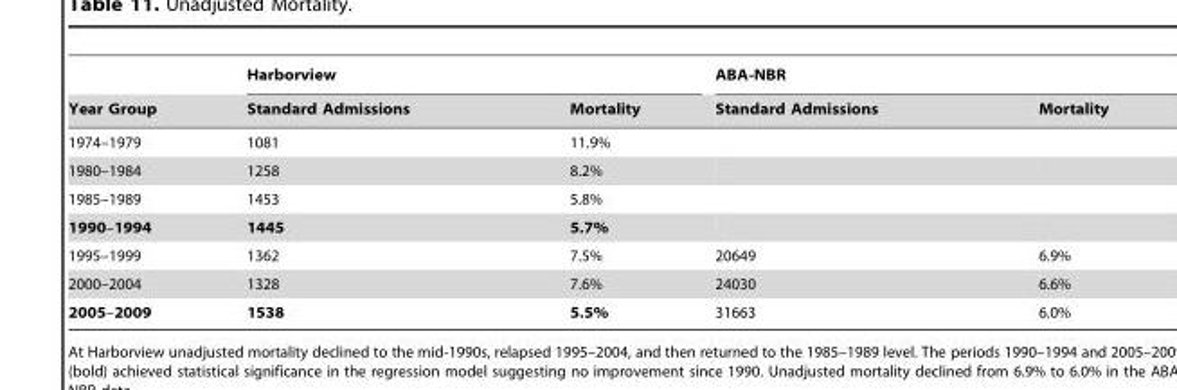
<table><thead><tr><td rowspan="2">Year Group</td><td colspan="2">Harborview</td><td colspan="2">ABA-NBR</td></tr><tr><td>Standard Admissions</td><td>Mortality</td><td>Standard Admissions</td><td>Mortality</td></tr></thead><tbody><tr><td>1974–1979</td><td>1081</td><td>11.9%</td><td></td><td></td></tr><tr><td>1980–1984</td><td>1258</td><td>8.2%</td><td></td><td></td></tr><tr><td>1985–1989</td><td>1453</td><td>5.8%</td><td></td><td></td></tr><tr><td>1990–1994</td><td>1445</td><td>5.7%</td><td></td><td></td></tr><tr><td>1995–1999</td><td>1362</td><td>7.5%</td><td>20649</td><td>6.9%</td></tr><tr><td>2000–2004</td><td>1328</td><td>7.6%</td><td>24030</td><td>6.6%</td></tr><tr><td>2005–2009</td><td>1538</td><td>5.5%</td><td>31663</td><td>6.0%</td></tr></tbody></table>